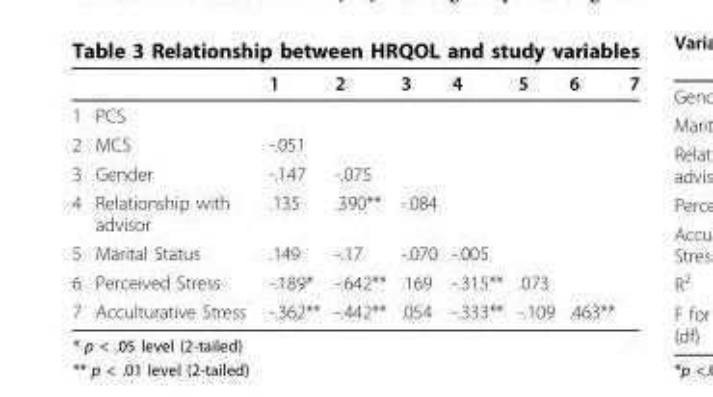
<table><thead><tr><td></td><td></td><td>1</td><td>2</td><td>3</td><td>4</td><td>5</td><td>6</td><td>7</td></tr></thead><tbody><tr><td>1</td><td>PCS</td><td></td><td></td><td></td><td></td><td></td><td></td><td></td></tr><tr><td>2</td><td>MCS</td><td>-.051</td><td></td><td></td><td></td><td></td><td></td><td></td></tr><tr><td>3</td><td>Gender</td><td>-.147</td><td>-.075</td><td></td><td></td><td></td><td></td><td></td></tr><tr><td>4</td><td>Relationship with advisor</td><td>.135</td><td>.390**</td><td>-.084</td><td></td><td></td><td></td><td></td></tr><tr><td>5</td><td>Marital Status</td><td>.149</td><td>-.17</td><td>-.070</td><td>-.005</td><td></td><td></td><td></td></tr><tr><td>6</td><td>Perceived Stress</td><td>-.189*</td><td>-.642**</td><td>.169</td><td>-.315**</td><td>.073</td><td></td><td></td></tr><tr><td>7</td><td>Acculturative Stress</td><td>-.362**</td><td>-.442**</td><td>.054</td><td>-.333**</td><td>-.109</td><td>.463**</td><td></td></tr></tbody></table>